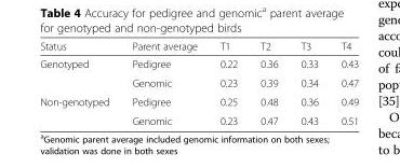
<table><thead><tr><td>Status</td><td>Parent average</td><td>T1</td><td>T2</td><td>T3</td><td>T4</td></tr></thead><tbody><tr><td rowspan="2">Genotyped</td><td>Pedigree</td><td>0.22</td><td>0.36</td><td>0.33</td><td>0.43</td></tr><tr><td>Genomic</td><td>0.23</td><td>0.39</td><td>0.34</td><td>0.47</td></tr><tr><td rowspan="2">Non-genotyped</td><td>Pedigree</td><td>0.25</td><td>0.48</td><td>0.36</td><td>0.49</td></tr><tr><td>Genomic</td><td>0.23</td><td>0.47</td><td>0.43</td><td>0.51</td></tr></tbody></table>